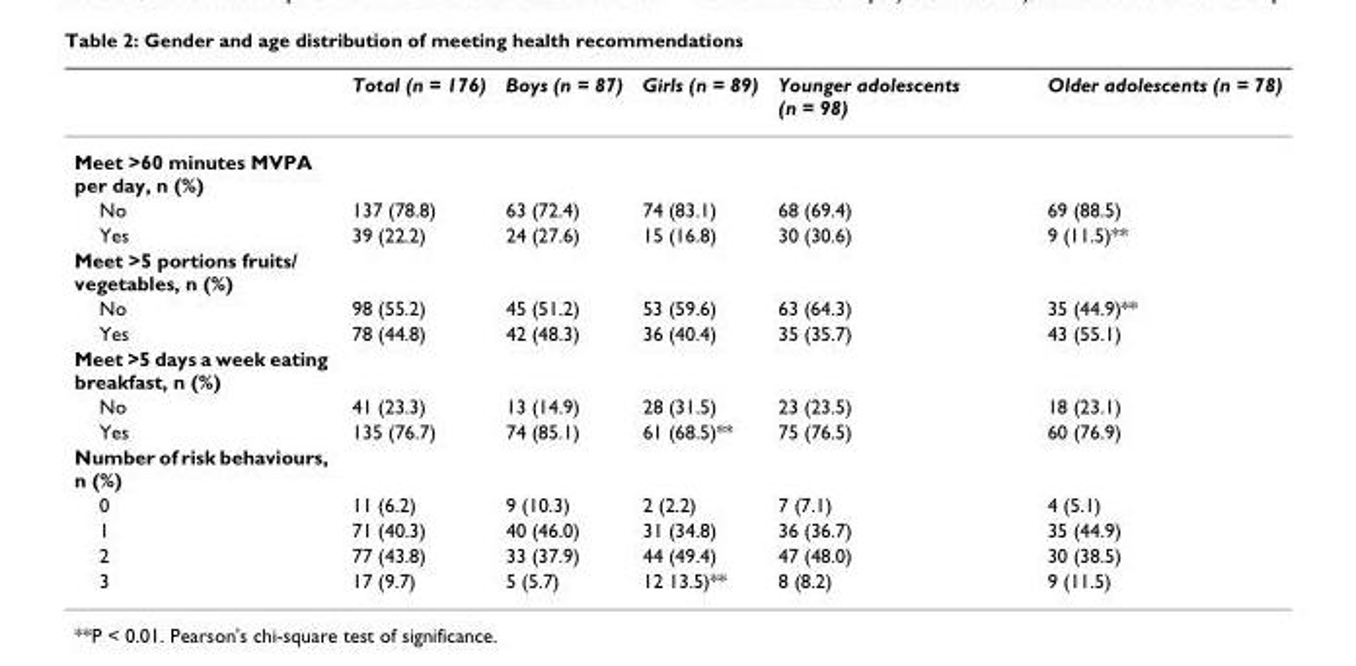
<table><thead><tr><td></td><td>Total (n = 176)</td><td>Boys (n = 87)</td><td>Girls (n = 89)</td><td>Younger adolescents (n = 98)</td><td>Older adolescents (n = 78)</td></tr></thead><tbody><tr><td colspan="6">Meet &gt;60 minutes MVPA per day, n (%)</td></tr><tr><td>No</td><td>137 (78.8)</td><td>63 (72.4)</td><td>74 (83.1)</td><td>68 (69.4)</td><td>69 (88.5)</td></tr><tr><td>Yes</td><td>39 (22.2)</td><td>24 (27.6)</td><td>15 (16.8)</td><td>30 (30.6)</td><td>9 (11.5)**</td></tr><tr><td colspan="6">Meet &gt;5 portions fruits/ vegetables, n (%)</td></tr><tr><td>No</td><td>98 (55.2)</td><td>45 (51.2)</td><td>53 (59.6)</td><td>63 (64.3)</td><td>35 (44.9)**</td></tr><tr><td>Yes</td><td>78 (44.8)</td><td>42 (48.3)</td><td>36 (40.4)</td><td>35 (35.7)</td><td>43 (55.1)</td></tr><tr><td colspan="6">Meet &gt;5 days a week eating breakfast, n (%)</td></tr><tr><td>No</td><td>41 (23.3)</td><td>13 (14.9)</td><td>28 (31.5)</td><td>23 (23.5)</td><td>18 (23.1)</td></tr><tr><td>Yes</td><td>135 (76.7)</td><td>74 (85.1)</td><td>61 (68.5)**</td><td>75 (76.5)</td><td>60 (76.9)</td></tr><tr><td colspan="6">Number of risk behaviours, n (%)</td></tr><tr><td>0</td><td>11 (6.2)</td><td>9 (10.3)</td><td>2 (2.2)</td><td>7 (7.1)</td><td>4 (5.1)</td></tr><tr><td>1</td><td>71 (40.3)</td><td>40 (46.0)</td><td>31 (34.8)</td><td>36 (36.7)</td><td>35 (44.9)</td></tr><tr><td>2</td><td>77 (43.8)</td><td>33 (37.9)</td><td>44 (49.4)</td><td>47 (48.0)</td><td>30 (38.5)</td></tr><tr><td>3</td><td>17 (9.7)</td><td>5 (5.7)</td><td>12 13.5)**</td><td>8 (8.2)</td><td>9 (11.5)</td></tr></tbody></table>